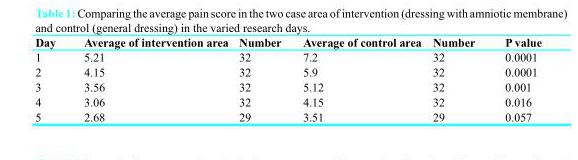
<table><thead><tr><td>Day</td><td>Average of intervention area</td><td>Number</td><td>Average of control area</td><td>Number</td><td>P value</td></tr></thead><tbody><tr><td>1</td><td>5.21</td><td>32</td><td>7.2</td><td>32</td><td>0.0001</td></tr><tr><td>2</td><td>4.15</td><td>32</td><td>5.9</td><td>32</td><td>0.0001</td></tr><tr><td>3</td><td>3.56</td><td>32</td><td>5.12</td><td>32</td><td>0.001</td></tr><tr><td>4</td><td>3.06</td><td>32</td><td>4.15</td><td>32</td><td>0.016</td></tr><tr><td>5</td><td>2.68</td><td>29</td><td>3.51</td><td>29</td><td>0.057</td></tr></tbody></table>